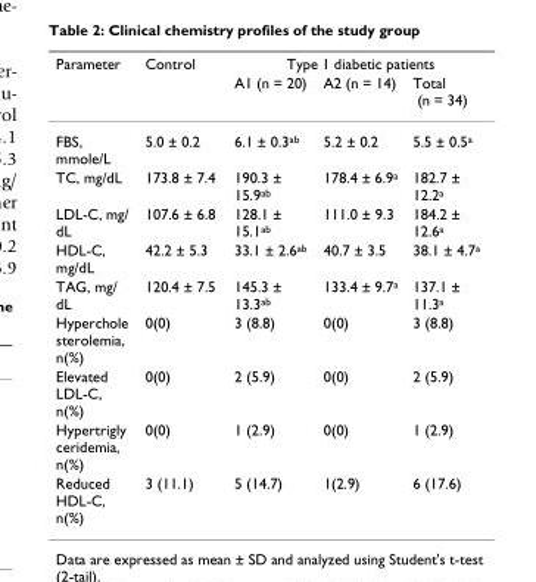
<table><thead><tr><td rowspan="2">Parameter</td><td rowspan="2">Control</td><td colspan="3">Type 1 diabetic patients</td></tr><tr><td>A1 (n = 20)</td><td>A2 (n = 14)</td><td>Total (n = 34)</td></tr></thead><tbody><tr><td>FBS, mmole/L</td><td>5.0 ± 0.2</td><td>6.1 ± 0.3<sup>ab</sup></td><td>5.2 ± 0.2</td><td>5.5 ± 0.5<sup>a</sup></td></tr><tr><td>TC, mg/dL</td><td>173.8 ± 7.4</td><td>190.3 ± 15.9<sup>ab</sup></td><td>178.4 ± 6.9<sup>a</sup></td><td>182.7 ± 12.2<sup>a</sup></td></tr><tr><td>LDL-C, mg/ dL</td><td>107.6 ± 6.8</td><td>128.1 ± 15.1<sup>ab</sup></td><td>111.0 ± 9.3</td><td>184.2 ± 12.6<sup>a</sup></td></tr><tr><td>HDL-C, mg/dL</td><td>42.2 ± 5.3</td><td>33.1 ± 2.6<sup>ab</sup></td><td>40.7 ± 3.5</td><td>38.1 ± 4.7<sup>a</sup></td></tr><tr><td>TAG, mg/ dL</td><td>120.4 ± 7.5</td><td>145.3 ± 13.3<sup>ab</sup></td><td>133.4 ± 9.7<sup>a</sup></td><td>137.1 ± 11.3<sup>a</sup></td></tr><tr><td>Hyperchole sterolemia, n(%)</td><td>0(0)</td><td>3 (8.8)</td><td>0(0)</td><td>3 (8.8)</td></tr><tr><td>Elevated LDL-C, n(%)</td><td>0(0)</td><td>2 (5.9)</td><td>0(0)</td><td>2 (5.9)</td></tr><tr><td>Hypertrigly ceridemia, n(%)</td><td>0(0)</td><td>1 (2.9)</td><td>0(0)</td><td>1 (2.9)</td></tr><tr><td>Reduced HDL-C, n(%)</td><td>3 (11.1)</td><td>5 (14.7)</td><td>1(2.9)</td><td>6 (17.6)</td></tr></tbody></table>